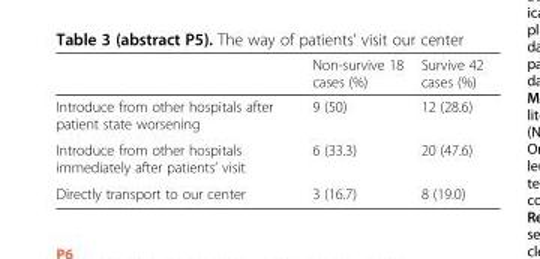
<table><thead><tr><td></td><td>Non-survive 18 cases (%)</td><td>Survive 42 cases (%)</td></tr></thead><tbody><tr><td>Introduce from other hospitals after patient state worsening</td><td>9 (50)</td><td>12 (28.6)</td></tr><tr><td>Introduce from other hospitals immediately after patients’ visit</td><td>6 (33.3)</td><td>20 (47.6)</td></tr><tr><td>Directly transport to our center</td><td>3 (16.7)</td><td>8 (19.0)</td></tr></tbody></table>